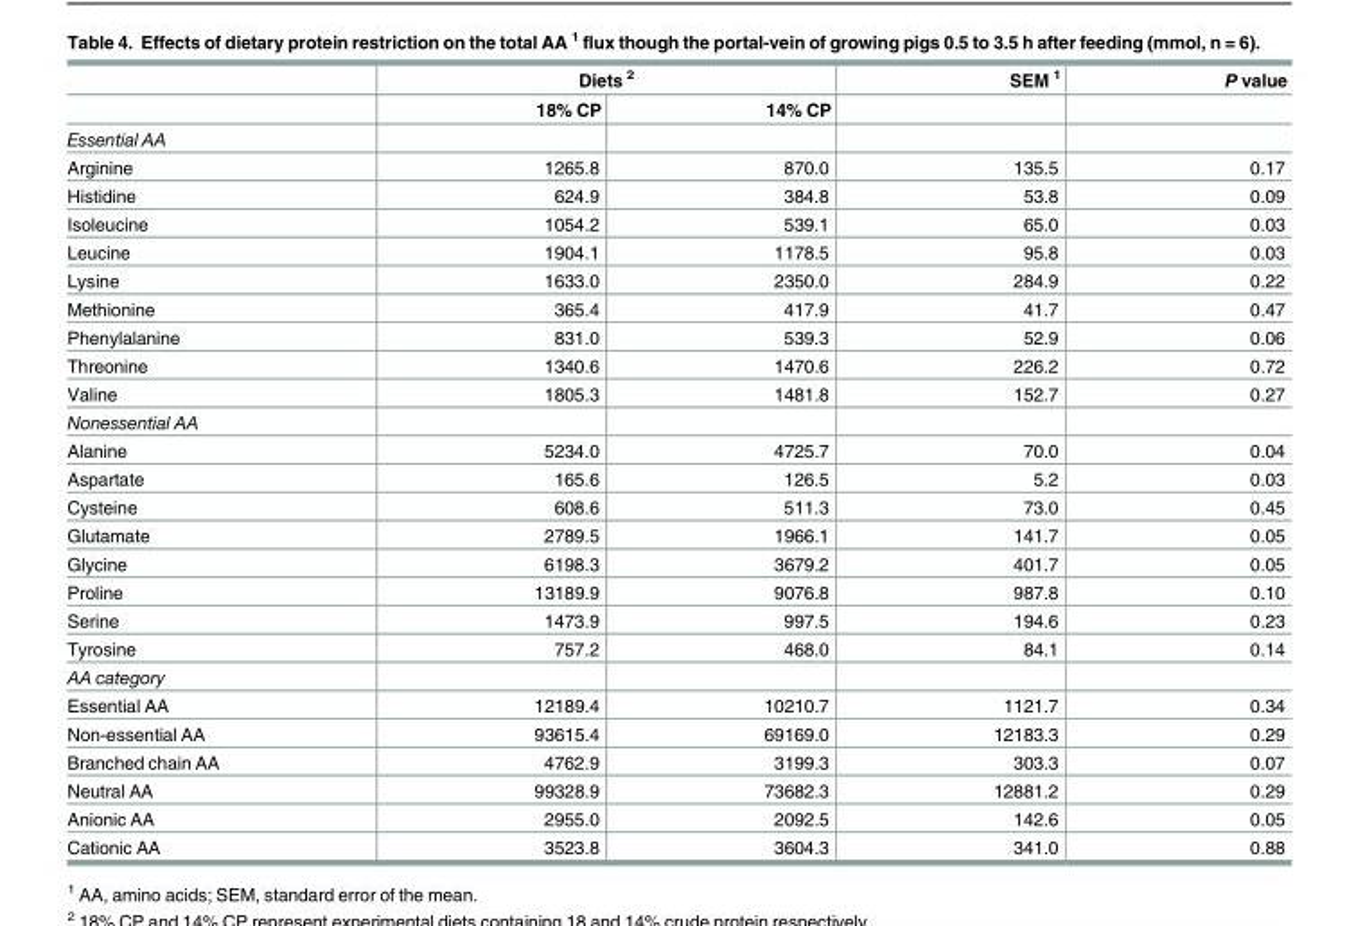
<table><thead><tr><td rowspan="2"></td><td colspan="2">Diets <sup>2</sup></td><td rowspan="2">SEM <sup>1</sup></td><td rowspan="2">P value</td></tr><tr><td>18% CP</td><td>14% CP</td></tr></thead><tbody><tr><td colspan="5">Essential AA</td></tr><tr><td>Arginine</td><td>1265.8</td><td>870.0</td><td>135.5</td><td>0.17</td></tr><tr><td>Histidine</td><td>624.9</td><td>384.8</td><td>53.8</td><td>0.09</td></tr><tr><td>Isoleucine</td><td>1054.2</td><td>539.1</td><td>65.0</td><td>0.03</td></tr><tr><td>Leucine</td><td>1904.1</td><td>1178.5</td><td>95.8</td><td>0.03</td></tr><tr><td>Lysine</td><td>1633.0</td><td>2350.0</td><td>284.9</td><td>0.22</td></tr><tr><td>Methionine</td><td>365.4</td><td>417.9</td><td>41.7</td><td>0.47</td></tr><tr><td>Phenylalanine</td><td>831.0</td><td>539.3</td><td>52.9</td><td>0.06</td></tr><tr><td>Threonine</td><td>1340.6</td><td>1470.6</td><td>226.2</td><td>0.72</td></tr><tr><td>Valine</td><td>1805.3</td><td>1481.8</td><td>152.7</td><td>0.27</td></tr><tr><td colspan="5">Nonessential AA</td></tr><tr><td>Alanine</td><td>5234.0</td><td>4725.7</td><td>70.0</td><td>0.04</td></tr><tr><td>Aspartate</td><td>165.6</td><td>126.5</td><td>5.2</td><td>0.03</td></tr><tr><td>Cysteine</td><td>608.6</td><td>511.3</td><td>73.0</td><td>0.45</td></tr><tr><td>Glutamate</td><td>2789.5</td><td>1966.1</td><td>141.7</td><td>0.05</td></tr><tr><td>Glycine</td><td>6198.3</td><td>3679.2</td><td>401.7</td><td>0.05</td></tr><tr><td>Proline</td><td>13189.9</td><td>9076.8</td><td>987.8</td><td>0.10</td></tr><tr><td>Serine</td><td>1473.9</td><td>997.5</td><td>194.6</td><td>0.23</td></tr><tr><td>Tyrosine</td><td>757.2</td><td>468.0</td><td>84.1</td><td>0.14</td></tr><tr><td colspan="5">AA category</td></tr><tr><td>Essential AA</td><td>12189.4</td><td>10210.7</td><td>1121.7</td><td>0.34</td></tr><tr><td>Non-essential AA</td><td>93615.4</td><td>69169.0</td><td>12183.3</td><td>0.29</td></tr><tr><td>Branched chain AA</td><td>4762.9</td><td>3199.3</td><td>303.3</td><td>0.07</td></tr><tr><td>Neutral AA</td><td>99328.9</td><td>73682.3</td><td>12881.2</td><td>0.29</td></tr><tr><td>Anionic AA</td><td>2955.0</td><td>2092.5</td><td>142.6</td><td>0.05</td></tr><tr><td>Cationic AA</td><td>3523.8</td><td>3604.3</td><td>341.0</td><td>0.88</td></tr></tbody></table>